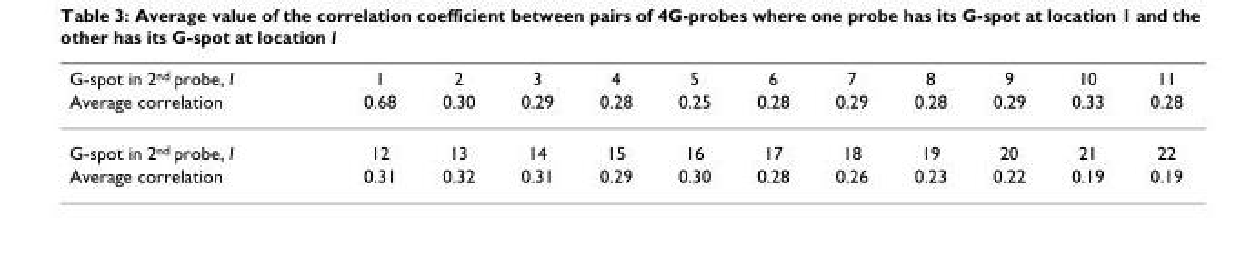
<table><thead><tr><td rowspan="2">G-spot in 2<sup>nd</sup> probe, l Average correlation</td><td rowspan="2">1 0.68</td><td rowspan="2">2 0.30</td><td rowspan="2">3 0.29</td><td rowspan="2">4 0.28</td><td rowspan="2">5 0.25</td><td rowspan="2">6 0.28</td><td rowspan="2">7 0.29</td><td rowspan="2">8 0.28</td><td rowspan="2">9 0.29</td><td rowspan="2">10 0.33</td><td rowspan="2">11 0.28</td></tr><tr></tr></thead><tbody><tr><td>G-spot in 2<sup>nd</sup> probe, l</td><td>12</td><td>13</td><td>14</td><td>15</td><td>16</td><td>17</td><td>18</td><td>19</td><td>20</td><td>21</td><td>22</td></tr><tr><td>Average correlation</td><td>0.31</td><td>0.32</td><td>0.31</td><td>0.29</td><td>0.30</td><td>0.28</td><td>0.26</td><td>0.23</td><td>0.22</td><td>0.19</td><td>0.19</td></tr></tbody></table>